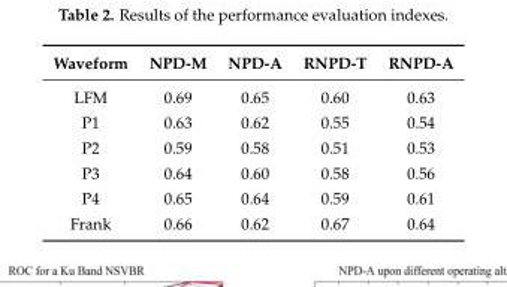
<table><thead><tr><td>Waveform</td><td>NPD-M</td><td>NPD-A</td><td>RNPD-T</td><td>RNPD-A</td></tr></thead><tbody><tr><td>LFM</td><td>0.69</td><td>0.65</td><td>0.60</td><td>0.63</td></tr><tr><td>P1</td><td>0.63</td><td>0.62</td><td>0.55</td><td>0.54</td></tr><tr><td>P2</td><td>0.59</td><td>0.58</td><td>0.51</td><td>0.53</td></tr><tr><td>P3</td><td>0.64</td><td>0.60</td><td>0.58</td><td>0.56</td></tr><tr><td>P4</td><td>0.65</td><td>0.64</td><td>0.59</td><td>0.61</td></tr><tr><td>Frank</td><td>0.66</td><td>0.62</td><td>0.67</td><td>0.64</td></tr></tbody></table>